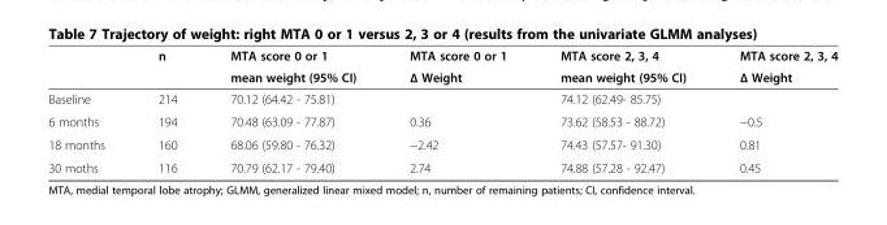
<table><thead><tr><td rowspan="2"></td><td rowspan="2">n</td><td rowspan="2">MTA score 0 or 1 mean weight (95% CI)</td><td rowspan="2">MTA score 0 or 1 Δ Weight</td><td rowspan="2">MTA score 2, 3, 4 mean weight (95% CI)</td><td rowspan="2">MTA score 2, 3, 4 Δ Weight</td></tr><tr></tr></thead><tbody><tr><td>Baseline</td><td>214</td><td>70.12 (64.42 - 75.81)</td><td></td><td>74.12 (62.49- 85.75)</td><td></td></tr><tr><td>6 months</td><td>194</td><td>70.48 (63.09 - 77.87)</td><td>0.36</td><td>73.62 (58.53 - 88.72)</td><td>−0.5</td></tr><tr><td>18 months</td><td>160</td><td>68.06 (59.80 - 76.32)</td><td>−2.42</td><td>74.43 (57.57- 91.30)</td><td>0.81</td></tr><tr><td>30 moths</td><td>116</td><td>70.79 (62.17 - 79.40)</td><td>2.74</td><td>74.88 (57.28 - 92.47)</td><td>0.45</td></tr></tbody></table>